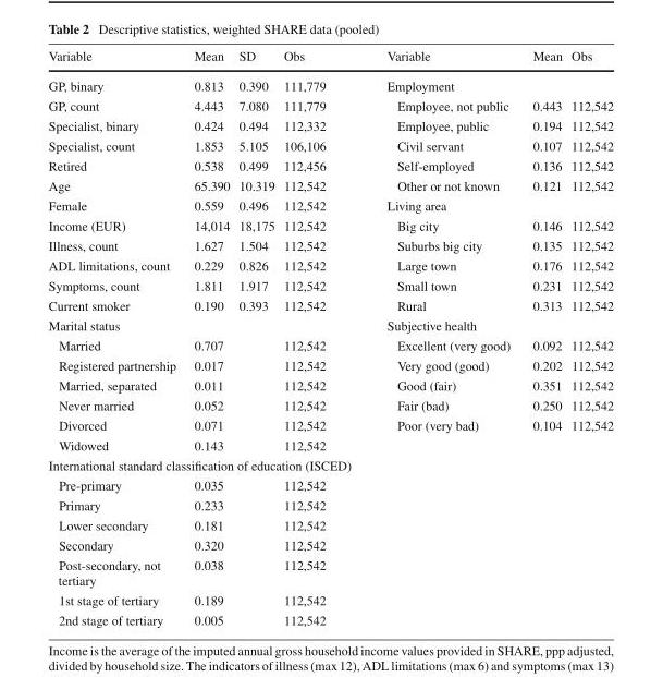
<table><thead><tr><td>Variable</td><td>Mean</td><td>SD</td><td>Obs</td><td>Variable</td><td>Mean</td><td>Obs</td></tr></thead><tbody><tr><td>GP, binary</td><td>0.813</td><td>0.390</td><td>111,779</td><td colspan="3">Employment</td></tr><tr><td>GP, count</td><td>4.443</td><td>7.080</td><td>111,779</td><td>Employee, not public</td><td>0.443</td><td>112,542</td></tr><tr><td>Specialist, binary</td><td>0.424</td><td>0.494</td><td>112,332</td><td>Employee, public</td><td>0.194</td><td>112,542</td></tr><tr><td>Specialist, count</td><td>1.853</td><td>5.105</td><td>106,106</td><td>Civil servant</td><td>0.107</td><td>112,542</td></tr><tr><td>Retired</td><td>0.538</td><td>0.499</td><td>112,456</td><td>Self-employed</td><td>0.136</td><td>112,542</td></tr><tr><td>Age</td><td>65.390</td><td>10.319</td><td>112,542</td><td>Other or not known</td><td>0.121</td><td>112,542</td></tr><tr><td>Female</td><td>0.559</td><td>0.496</td><td>112,542</td><td colspan="3">Living area</td></tr><tr><td>Income (EUR)</td><td>14,014</td><td>18,175</td><td>112,542</td><td>Big city</td><td>0.146</td><td>112,542</td></tr><tr><td>Illness, count</td><td>1.627</td><td>1.504</td><td>112,542</td><td>Suburbs big city</td><td>0.135</td><td>112,542</td></tr><tr><td>ADL limitations, count</td><td>0.229</td><td>0.826</td><td>112,542</td><td>Large town</td><td>0.176</td><td>112,542</td></tr><tr><td>Symptoms, count</td><td>1.811</td><td>1.917</td><td>112,542</td><td>Small town</td><td>0.231</td><td>112,542</td></tr><tr><td>Current smoker</td><td>0.190</td><td>0.393</td><td>112,542</td><td>Rural</td><td>0.313</td><td>112,542</td></tr><tr><td colspan="4">Marital status</td><td colspan="3">Subjective health</td></tr><tr><td>Married</td><td>0.707</td><td></td><td>112,542</td><td>Excellent (very good)</td><td>0.092</td><td>112,542</td></tr><tr><td>Registered partnership</td><td>0.017</td><td></td><td>112,542</td><td>Very good (good)</td><td>0.202</td><td>112,542</td></tr><tr><td>Married, separated</td><td>0.011</td><td></td><td>112,542</td><td>Good (fair)</td><td>0.351</td><td>112,542</td></tr><tr><td>Never married</td><td>0.052</td><td></td><td>112,542</td><td>Fair (bad)</td><td>0.250</td><td>112,542</td></tr><tr><td>Divorced</td><td>0.071</td><td></td><td>112,542</td><td>Poor (very bad)</td><td>0.104</td><td>112,542</td></tr><tr><td>Widowed</td><td>0.143</td><td></td><td>112,542</td><td colspan="3"></td></tr><tr><td colspan="7">International standard classification of education (ISCED)</td></tr><tr><td>Pre-primary</td><td>0.035</td><td></td><td>112,542</td><td colspan="3"></td></tr><tr><td>Primary</td><td>0.233</td><td></td><td>112,542</td><td colspan="3"></td></tr><tr><td>Lower secondary</td><td>0.181</td><td></td><td>112,542</td><td colspan="3"></td></tr><tr><td>Secondary</td><td>0.320</td><td></td><td>112,542</td><td colspan="3"></td></tr><tr><td>Post-secondary, not tertiary</td><td>0.038</td><td></td><td>112,542</td><td colspan="3"></td></tr><tr><td>1st stage of tertiary</td><td>0.189</td><td></td><td>112,542</td><td colspan="3"></td></tr><tr><td>2nd stage of tertiary</td><td>0.005</td><td></td><td>112,542</td><td colspan="3"></td></tr></tbody></table>